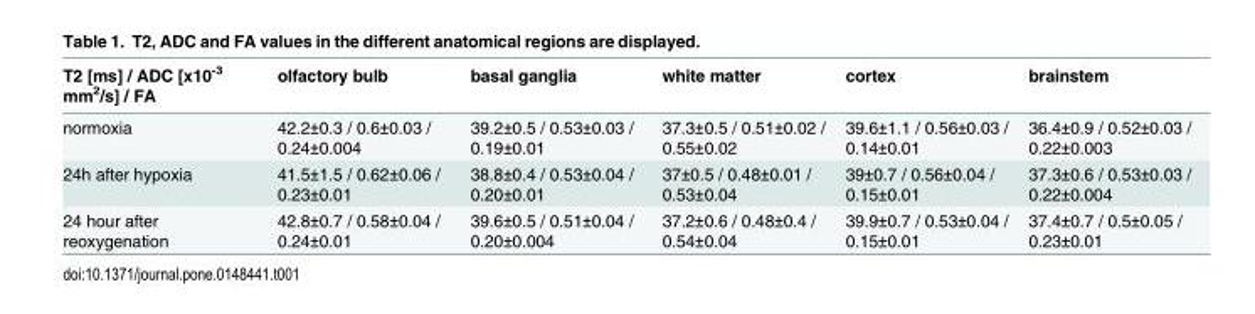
<table><thead><tr><td>T2 [ms] / ADC [x10<sup>-3</sup> mm<sup>2</sup>/s] / FA</td><td>olfactory bulb</td><td>basal ganglia</td><td>white matter</td><td>cortex</td><td>brainstem</td></tr></thead><tbody><tr><td>normoxia</td><td>42.2±0.3 / 0.6±0.03 / 0.24±0.004</td><td>39.2±0.5 / 0.53±0.03 / 0.19±0.01</td><td>37.3±0.5 / 0.51±0.02 / 0.55±0.02</td><td>39.6±1.1 / 0.56±0.03 / 0.14±0.01</td><td>36.4±0.9 / 0.52±0.03 / 0.22±0.003</td></tr><tr><td>24h after hypoxia</td><td>41.5±1.5 / 0.62±0.06 / 0.23±0.01</td><td>38.8±0.4 / 0.53±0.04 / 0.20±0.01</td><td>37±0.5 / 0.48±0.01 / 0.53±0.04</td><td>39±0.7 / 0.56±0.04 / 0.15±0.01</td><td>37.3±0.6 / 0.53±0.03 / 0.22±0.004</td></tr><tr><td>24 hour after reoxygenation</td><td>42.8±0.7 / 0.58±0.04 / 0.24±0.01</td><td>39.6±0.5 / 0.51±0.04 / 0.20±0.004</td><td>37.2±0.6 / 0.48±0.4 / 0.54±0.04</td><td>39.9±0.7 / 0.53±0.04 / 0.15±0.01</td><td>37.4±0.7 / 0.5±0.05 / 0.23±0.01</td></tr></tbody></table>